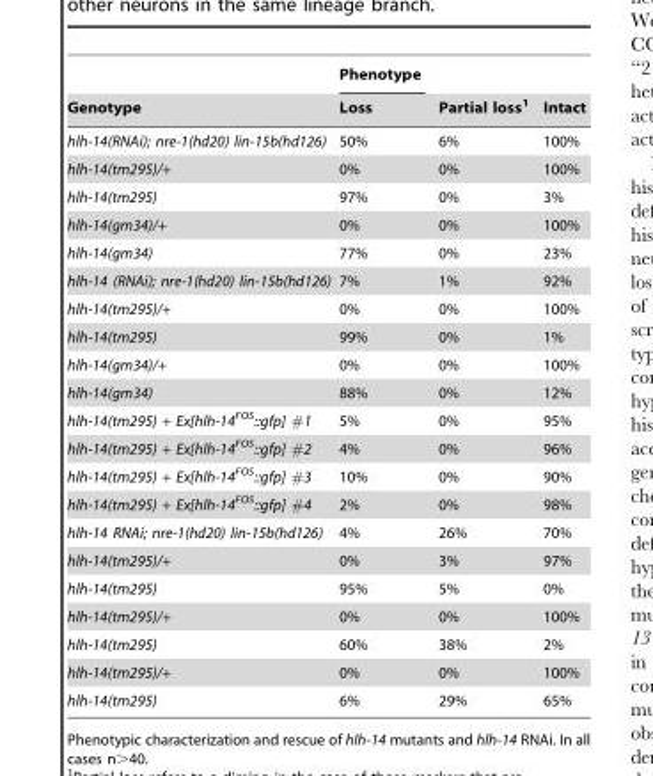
<table><thead><tr><td rowspan="2">Genotype</td><td rowspan="2">Phenotype Loss</td><td rowspan="2">Partial loss<sup>1</sup></td><td rowspan="2">Intact</td></tr><tr></tr></thead><tbody><tr><td>hlh-14(RNAi); nre-1(hd20) lin-15b(hd126)</td><td>50%</td><td>6%</td><td>100%</td></tr><tr><td>hlh-14(tm295)/+</td><td>0%</td><td>0%</td><td>100%</td></tr><tr><td>hlh-14(tm295)</td><td>97%</td><td>0%</td><td>3%</td></tr><tr><td>hlh-14(gm34)/+</td><td>0%</td><td>0%</td><td>100%</td></tr><tr><td>hlh-14(gm34)</td><td>77%</td><td>0%</td><td>23%</td></tr><tr><td>hlh-14 (RNAi); nre-1(hd20) lin-15b(hd126)</td><td>7%</td><td>1%</td><td>92%</td></tr><tr><td>hlh-14(tm295)/+</td><td>0%</td><td>0%</td><td>100%</td></tr><tr><td>hlh-14(tm295)</td><td>99%</td><td>0%</td><td>1%</td></tr><tr><td>hlh-14(gm34)/+</td><td>0%</td><td>0%</td><td>100%</td></tr><tr><td>hlh-14(gm34)</td><td>88%</td><td>0%</td><td>12%</td></tr><tr><td>hlh-14(tm295) + Ex[hlh-14<sup>FOS</sup>::gfp] #1</td><td>5%</td><td>0%</td><td>95%</td></tr><tr><td>hlh-14(tm295) + Ex[hlh-14<sup>FOS</sup>::gfp] #2</td><td>4%</td><td>0%</td><td>96%</td></tr><tr><td>hlh-14(tm295) + Ex[hlh-14<sup>FOS</sup>::gfp] #3</td><td>10%</td><td>0%</td><td>90%</td></tr><tr><td>hlh-14(tm295) + Ex[hlh-14<sup>FOS</sup>::gfp] #4</td><td>2%</td><td>0%</td><td>98%</td></tr><tr><td>hlh-14 RNAi; nre-1(hd20) lin-15b(hd126)</td><td>4%</td><td>26%</td><td>70%</td></tr><tr><td>hlh-14(tm295)/+</td><td>0%</td><td>3%</td><td>97%</td></tr><tr><td>hlh-14(tm295)</td><td>95%</td><td>5%</td><td>0%</td></tr><tr><td>hlh-14(tm295)/+</td><td>0%</td><td>0%</td><td>100%</td></tr><tr><td>hlh-14(tm295)</td><td>60%</td><td>38%</td><td>2%</td></tr><tr><td>hlh-14(tm295)/+</td><td>0%</td><td>0%</td><td>100%</td></tr><tr><td>hlh-14(tm295)</td><td>6%</td><td>29%</td><td>65%</td></tr></tbody></table>